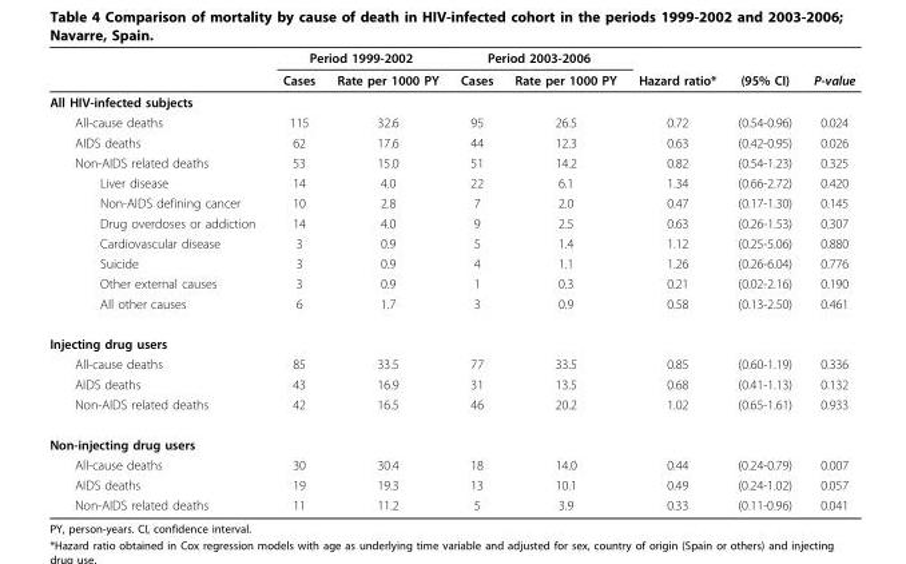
<table><thead><tr><td rowspan="2"></td><td colspan="2">Period 1999-2002</td><td colspan="2">Period 2003-2006</td><td rowspan="2">Hazard ratio*</td><td rowspan="2">(95% CI)</td><td rowspan="2">P-value</td></tr><tr><td>Cases</td><td>Rate per 1000 PY</td><td>Cases</td><td>Rate per 1000 PY</td></tr></thead><tbody><tr><td colspan="8">All HIV-infected subjects</td></tr><tr><td>All-cause deaths</td><td>115</td><td>32.6</td><td>95</td><td>26.5</td><td>0.72</td><td>(0.54-0.96)</td><td>0.024</td></tr><tr><td>AIDS deaths</td><td>62</td><td>17.6</td><td>44</td><td>12.3</td><td>0.63</td><td>(0.42-0.95)</td><td>0.026</td></tr><tr><td>Non-AIDS related deaths</td><td>53</td><td>15.0</td><td>51</td><td>14.2</td><td>0.82</td><td>(0.54-1.23)</td><td>0.325</td></tr><tr><td>Liver disease</td><td>14</td><td>4.0</td><td>22</td><td>6.1</td><td>1.34</td><td>(0.66-2.72)</td><td>0.420</td></tr><tr><td>Non-AIDS defining cancer</td><td>10</td><td>2.8</td><td>7</td><td>2.0</td><td>0.47</td><td>(0.17-1.30)</td><td>0.145</td></tr><tr><td>Drug overdoses or addiction</td><td>14</td><td>4.0</td><td>9</td><td>2.5</td><td>0.63</td><td>(0.26-1.53)</td><td>0.307</td></tr><tr><td>Cardiovascular disease</td><td>3</td><td>0.9</td><td>5</td><td>1.4</td><td>1.12</td><td>(0.25-5.06)</td><td>0.880</td></tr><tr><td>Suicide</td><td>3</td><td>0.9</td><td>4</td><td>1.1</td><td>1.26</td><td>(0.26-6.04)</td><td>0.776</td></tr><tr><td>Other external causes</td><td>3</td><td>0.9</td><td>1</td><td>0.3</td><td>0.21</td><td>(0.02-2.16)</td><td>0.190</td></tr><tr><td>All other causes</td><td>6</td><td>1.7</td><td>3</td><td>0.9</td><td>0.58</td><td>(0.13-2.50)</td><td>0.461</td></tr><tr><td colspan="8">Injecting drug users</td></tr><tr><td>All-cause deaths</td><td>85</td><td>33.5</td><td>77</td><td>33.5</td><td>0.85</td><td>(0.60-1.19)</td><td>0.336</td></tr><tr><td>AIDS deaths</td><td>43</td><td>16.9</td><td>31</td><td>13.5</td><td>0.68</td><td>(0.41-1.13)</td><td>0.132</td></tr><tr><td>Non-AIDS related deaths</td><td>42</td><td>16.5</td><td>46</td><td>20.2</td><td>1.02</td><td>(0.65-1.61)</td><td>0.933</td></tr><tr><td colspan="8">Non-injecting drug users</td></tr><tr><td>All-cause deaths</td><td>30</td><td>30.4</td><td>18</td><td>14.0</td><td>0.44</td><td>(0.24-0.79)</td><td>0.007</td></tr><tr><td>AIDS deaths</td><td>19</td><td>19.3</td><td>13</td><td>10.1</td><td>0.49</td><td>(0.24-1.02)</td><td>0.057</td></tr><tr><td>Non-AIDS related deaths</td><td>11</td><td>11.2</td><td>5</td><td>3.9</td><td>0.33</td><td>(0.11-0.96)</td><td>0.041</td></tr></tbody></table>